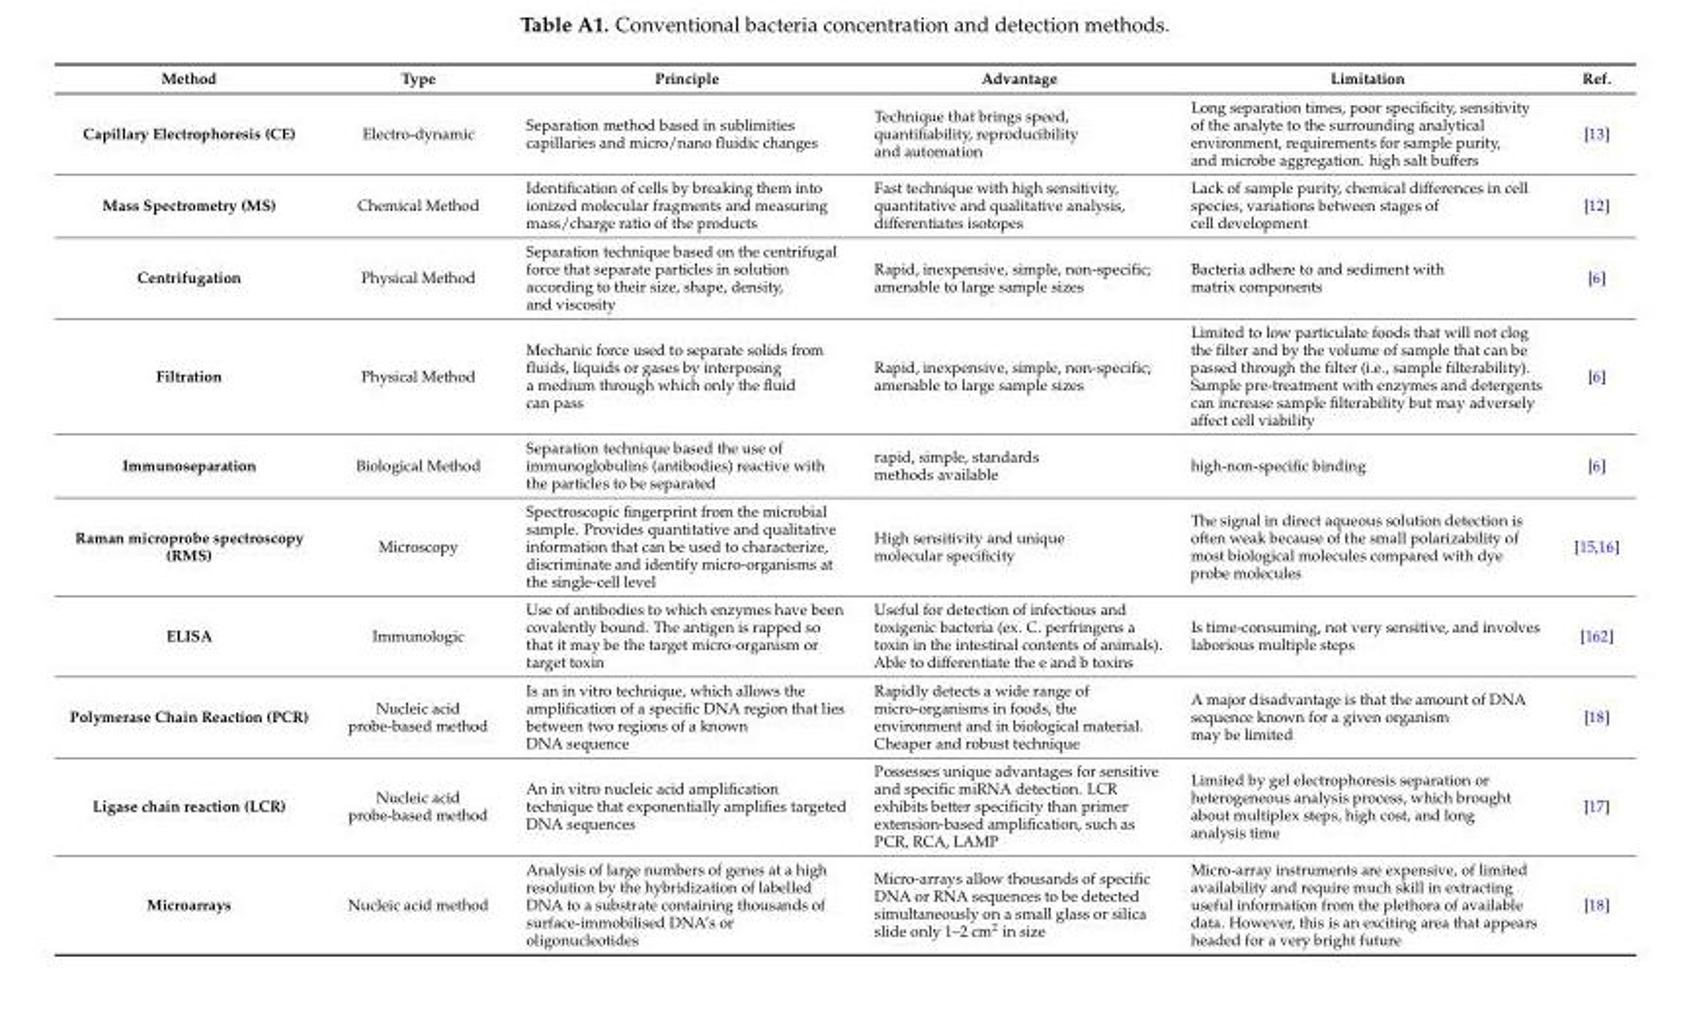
<table><thead><tr><td>Method</td><td>Type</td><td>Principle</td><td>Advantage</td><td>Limitation</td><td>Ref.</td></tr></thead><tbody><tr><td>Capillary Electrophoresis (CE)</td><td>Electro-dynamic</td><td>Separation method based in sublimities capillaries and micro/nano fluidic changes</td><td>Technique that brings speed, quantifiability, reproducibility and automation</td><td>Long separation times, poor specificity, sensitivity of the analyte to the surrounding analytical environment, requirements for sample purity, and microbe aggregation. high salt buffers</td><td>[13]</td></tr><tr><td>Mass Spectrometry (MS)</td><td>Chemical Method</td><td>Identification of cells by breaking them into ionized molecular fragments and measuring mass/charge ratio of the products</td><td>Fast technique with high sensitivity, quantitative and qualitative analysis, differentiates isotopes</td><td>Lack of sample purity, chemical differences in cell species, variations between stages of cell development</td><td>[12]</td></tr><tr><td>Centrifugation</td><td>Physical Method</td><td>Separation technique based on the centrifugal force that separate particles in solution according to their size, shape, density, and viscosity</td><td>Rapid, inexpensive, simple, non-specific; amenable to large sample sizes</td><td>Bacteria adhere to and sediment with matrix components</td><td>[6]</td></tr><tr><td>Filtration</td><td>Physical Method</td><td>Mechanic force used to separate solids from fluids, liquids or gases by interposing a medium through which only the fluid can pass</td><td>Rapid, inexpensive, simple, non-specific; amenable to large sample sizes</td><td>Limited to low particulate foods that will not clog the filter and by the volume of sample that can be passed through the filter (i.e., sample filterability). Sample pre-treatment with enzymes and detergents can increase sample filterability but may adversely affect cell viability</td><td>[6]</td></tr><tr><td>Immunoseparation</td><td>Biological Method</td><td>Separation technique based the use of immunoglobulins (antibodies) reactive with the particles to be separated</td><td>rapid, simple, standards methods available</td><td>high-non-specific binding</td><td>[6]</td></tr><tr><td>Raman microprobe spectroscopy (RMS)</td><td>Microscopy</td><td>Spectroscopic fingerprint from the microbial sample. Provides quantitative and qualitative information that can be used to characterize, discriminate and identify micro-organisms at the single-cell level</td><td>High sensitivity and unique molecular specificity</td><td>The signal in direct aqueous solution detection is often weak because of the small polarizability of most biological molecules compared with dye probe molecules</td><td>[15,16]</td></tr><tr><td>ELISA</td><td>Immunologic</td><td>Use of antibodies to which enzymes have been covalently bound. The antigen is rapped so that it may be the target micro-organism or target toxin</td><td>Useful for detection of infectious and toxigenic bacteria (ex. C. perfringens a toxin in the intestinal contents of animals). Able to differentiate the e and b toxins</td><td>Is time-consuming, not very sensitive, and involves laborious multiple steps</td><td>[162]</td></tr><tr><td>Polymerase Chain Reaction (PCR)</td><td>Nucleic acid probe-based method</td><td>Is an in vitro technique, which allows the amplification of a specific DNA region that lies between two regions of a known DNA sequence</td><td>Rapidly detects a wide range of micro-organisms in foods, the environment and in biological material. Cheaper and robust technique</td><td>A major disadvantage is that the amount of DNA sequence known for a given organism may be limited</td><td>[18]</td></tr><tr><td>Ligase chain reaction (LCR)</td><td>Nucleic acid probe-based method</td><td>An in vitro nucleic acid amplification technique that exponentially amplifies targeted DNA sequences</td><td>Possesses unique advantages for sensitive and specific miRNA detection. LCR exhibits better specificity than primer extension-based amplification, such as PCR, RCA, LAMP</td><td>Limited by gel electrophoresis separation or heterogeneous analysis process, which brought about multiplex steps, high cost, and long analysis time</td><td>[17]</td></tr><tr><td>Microarrays</td><td>Nucleic acid method</td><td>Analysis of large numbers of genes at a high resolution by the hybridization of labelled DNA to a substrate containing thousands of surface-immobilised DNA’s or oligonucleotides</td><td>Micro-arrays allow thousands of specific DNA or RNA sequences to be detected simultaneously on a small glass or silica slide only 1–2 cm<sup>2</sup> in size</td><td>Micro-array instruments are expensive, of limited availability and require much skill in extracting useful information from the plethora of available data. However, this is an exciting area that appears headed for a very bright future</td><td>[18]</td></tr></tbody></table>